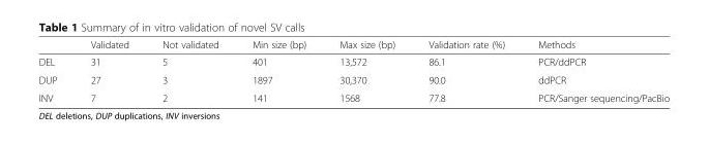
<table><thead><tr><td></td><td>Validated</td><td>Not validated</td><td>Min size (bp)</td><td>Max size (bp)</td><td>Validation rate (%)</td><td>Methods</td></tr></thead><tbody><tr><td>DEL</td><td>31</td><td>5</td><td>401</td><td>13,572</td><td>86.1</td><td>PCR/ddPCR</td></tr><tr><td>DUP</td><td>27</td><td>3</td><td>1897</td><td>30,370</td><td>90.0</td><td>ddPCR</td></tr><tr><td>INV</td><td>7</td><td>2</td><td>141</td><td>1568</td><td>77.8</td><td>PCR/Sanger sequencing/PacBio</td></tr></tbody></table>